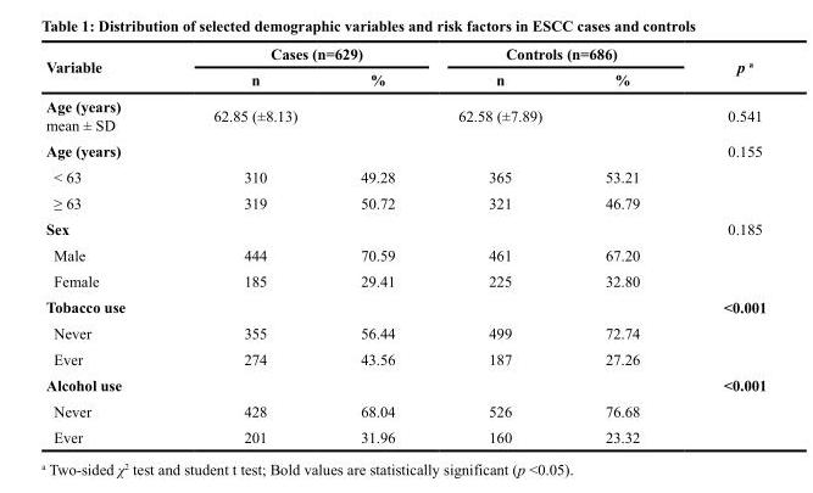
<table><thead><tr><td rowspan="2">Variable</td><td colspan="2">Cases (n=629)</td><td colspan="2">Controls (n=686)</td><td rowspan="2">p <sup>a</sup></td></tr><tr><td>n</td><td>%</td><td>n</td><td>%</td></tr></thead><tbody><tr><td>Age (years) mean ± SD</td><td>62.85 (±8.13)</td><td></td><td>62.58 (±7.89)</td><td></td><td>0.541</td></tr><tr><td>Age (years)</td><td></td><td></td><td></td><td></td><td>0.155</td></tr><tr><td>&lt; 63</td><td>310</td><td>49.28</td><td>365</td><td>53.21</td><td></td></tr><tr><td>≥ 63</td><td>319</td><td>50.72</td><td>321</td><td>46.79</td><td></td></tr><tr><td>Sex</td><td></td><td></td><td></td><td></td><td>0.185</td></tr><tr><td>Male</td><td>444</td><td>70.59</td><td>461</td><td>67.20</td><td></td></tr><tr><td>Female</td><td>185</td><td>29.41</td><td>225</td><td>32.80</td><td></td></tr><tr><td>Tobacco use</td><td></td><td></td><td></td><td></td><td>&lt;0.001</td></tr><tr><td>Never</td><td>355</td><td>56.44</td><td>499</td><td>72.74</td><td></td></tr><tr><td>Ever</td><td>274</td><td>43.56</td><td>187</td><td>27.26</td><td></td></tr><tr><td>Alcohol use</td><td></td><td></td><td></td><td></td><td>&lt;0.001</td></tr><tr><td>Never</td><td>428</td><td>68.04</td><td>526</td><td>76.68</td><td></td></tr><tr><td>Ever</td><td>201</td><td>31.96</td><td>160</td><td>23.32</td><td></td></tr></tbody></table>